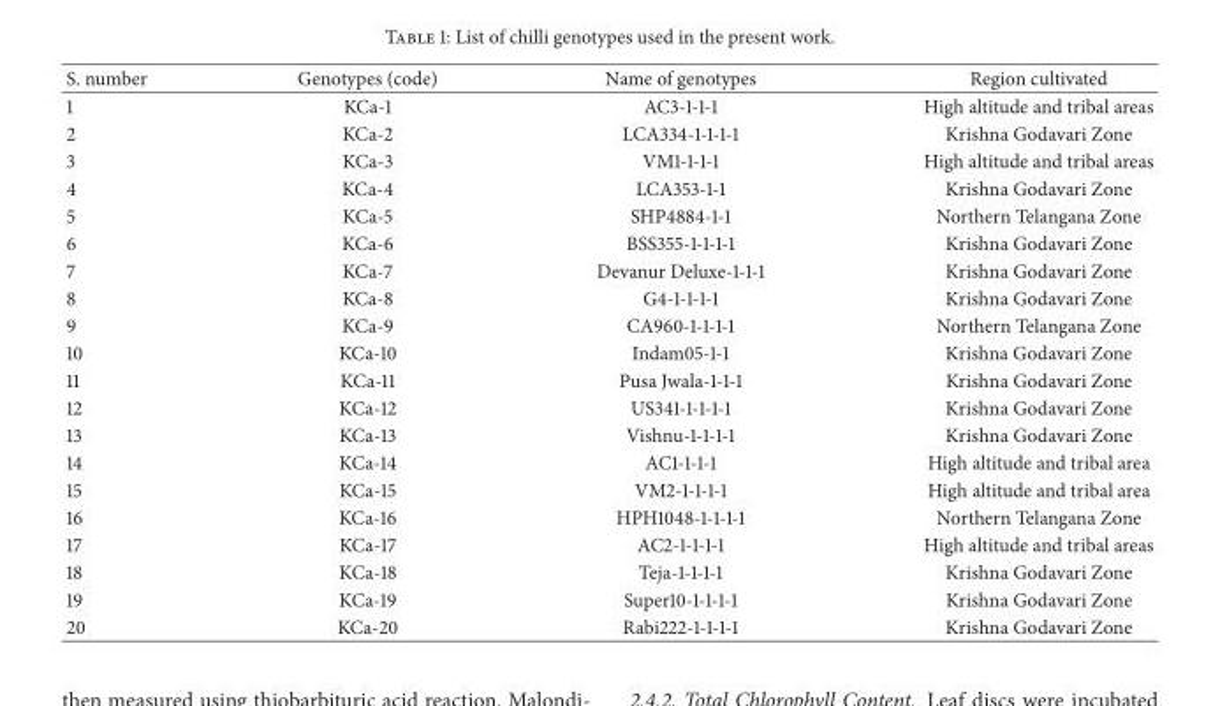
<table><thead><tr><td>S. number</td><td>Genotypes (code)</td><td>Name of genotypes</td><td>Region cultivated</td></tr></thead><tbody><tr><td>1</td><td>KCa-1</td><td>AC3-1-1-1</td><td>High altitude and tribal areas</td></tr><tr><td>2</td><td>KCa-2</td><td>LCA334-1-1-1-1</td><td>Krishna Godavari Zone</td></tr><tr><td>3</td><td>KCa-3</td><td>VM1-1-1-1</td><td>High altitude and tribal areas</td></tr><tr><td>4</td><td>KCa-4</td><td>LCA353-1-1</td><td>Krishna Godavari Zone</td></tr><tr><td>5</td><td>KCa-5</td><td>SHP4884-1-1</td><td>Northern Telangana Zone</td></tr><tr><td>6</td><td>KCa-6</td><td>BSS355-1-1-1-1</td><td>Krishna Godavari Zone</td></tr><tr><td>7</td><td>KCa-7</td><td>Devanur Deluxe-1-1-1</td><td>Krishna Godavari Zone</td></tr><tr><td>8</td><td>KCa-8</td><td>G4-1-1-1-1</td><td>Krishna Godavari Zone</td></tr><tr><td>9</td><td>KCa-9</td><td>CA960-1-1-1-1</td><td>Northern Telangana Zone</td></tr><tr><td>10</td><td>KCa-10</td><td>Indam05-1-1</td><td>Krishna Godavari Zone</td></tr><tr><td>11</td><td>KCa-11</td><td>Pusa Jwala-1-1-1</td><td>Krishna Godavari Zone</td></tr><tr><td>12</td><td>KCa-12</td><td>US341-1-1-1-1</td><td>Krishna Godavari Zone</td></tr><tr><td>13</td><td>KCa-13</td><td>Vishnu-1-1-1-1</td><td>Krishna Godavari Zone</td></tr><tr><td>14</td><td>KCa-14</td><td>AC1-1-1-1</td><td>High altitude and tribal area</td></tr><tr><td>15</td><td>KCa-15</td><td>VM2-1-1-1-1</td><td>High altitude and tribal area</td></tr><tr><td>16</td><td>KCa-16</td><td>HPH1048-1-1-1-1</td><td>Northern Telangana Zone</td></tr><tr><td>17</td><td>KCa-17</td><td>AC2-1-1-1-1</td><td>High altitude and tribal areas</td></tr><tr><td>18</td><td>KCa-18</td><td>Teja-1-1-1-1</td><td>Krishna Godavari Zone</td></tr><tr><td>19</td><td>KCa-19</td><td>Super10-1-1-1-1</td><td>Krishna Godavari Zone</td></tr><tr><td>20</td><td>KCa-20</td><td>Rabi222-1-1-1-1</td><td>Krishna Godavari Zone</td></tr></tbody></table>